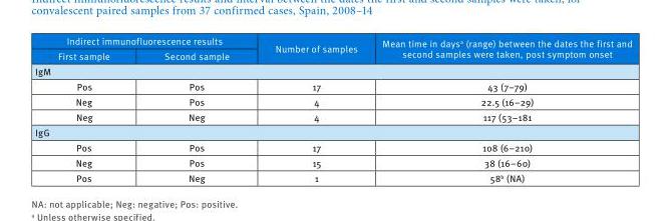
<table><thead><tr><td colspan="2">Indirect immunofluorescence results</td><td rowspan="2">Number of samples</td><td rowspan="2">Mean time in days<sup>a</sup> (range) between the dates the first and second samples were taken, post symptom onset</td></tr><tr><td>First sample</td><td>Second sample</td></tr></thead><tbody><tr><td colspan="4">IgM</td></tr><tr><td>Pos</td><td>Pos</td><td>17</td><td>43 (7–79)</td></tr><tr><td>Neg</td><td>Pos</td><td>4</td><td>22.5 (16–29)</td></tr><tr><td>Neg</td><td>Neg</td><td>4</td><td>117 (53–181</td></tr><tr><td colspan="4">IgG</td></tr><tr><td>Pos</td><td>Pos</td><td>17</td><td>108 (6–210)</td></tr><tr><td>Neg</td><td>Pos</td><td>15</td><td>38 (16–60)</td></tr><tr><td>Pos</td><td>Neg</td><td>1</td><td>58<sup>b</sup> (NA)</td></tr></tbody></table>